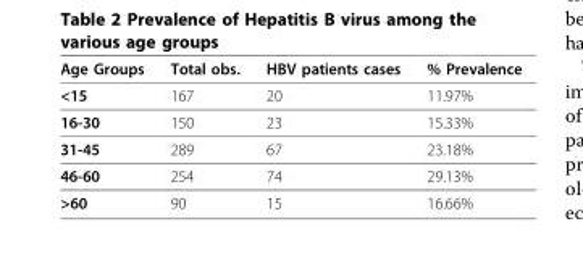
<table><thead><tr><td>Age Groups</td><td>Total obs.</td><td>HBV patients cases</td><td>% Prevalence</td></tr></thead><tbody><tr><td>&lt;15</td><td>167</td><td>20</td><td>11.97%</td></tr><tr><td>16-30</td><td>150</td><td>23</td><td>15.33%</td></tr><tr><td>31-45</td><td>289</td><td>67</td><td>23.18%</td></tr><tr><td>46-60</td><td>254</td><td>74</td><td>29.13%</td></tr><tr><td>&gt;60</td><td>90</td><td>15</td><td>16.66%</td></tr></tbody></table>